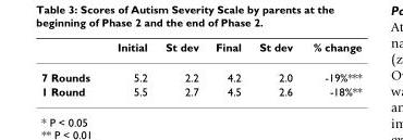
<table><thead><tr><td></td><td>Initial</td><td>St dev</td><td>Final</td><td>St dev</td><td>% change</td></tr></thead><tbody><tr><td>7 Rounds</td><td>5.2</td><td>2.2</td><td>4.2</td><td>2.0</td><td>-19%***</td></tr><tr><td>1 Round</td><td>5.5</td><td>2.7</td><td>4.5</td><td>2.6</td><td>-18%**</td></tr></tbody></table>